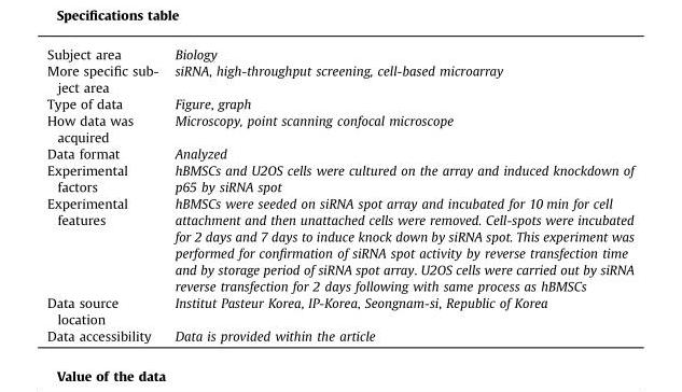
<table><tbody><tr><td>Subject area</td><td>Biology</td></tr><tr><td>More specific sub- ject area</td><td>siRNA, high-throughput screening, cell-based microarray</td></tr><tr><td>Type of data</td><td>Figure, graph</td></tr><tr><td>How data was acquired</td><td>Microscopy, point scanning confocal microscope</td></tr><tr><td>Data format</td><td>Analyzed</td></tr><tr><td>Experimental factors</td><td>hBMSCs and U2OS cells were cultured on the array and induced knockdown of p65 by siRNA spot</td></tr><tr><td>Experimental features</td><td>hBMSCs were seeded on siRNA spot array and incubated for 10 min for cell attachment and then unattached cells were removed. Cell-spots were incubated for 2 days and 7 days to induce knock down by siRNA spot. This experiment was performed for confirmation of siRNA spot activity by reverse transfection time and by storage period of siRNA spot array. U2OS cells were carried out by siRNA reverse transfection for 2 days following with same process as hBMSCs</td></tr><tr><td>Data source location</td><td>Institut Pasteur Korea, IP-Korea, Seongnam-si, Republic of Korea</td></tr><tr><td>Data accessibility</td><td>Data is provided within the article</td></tr></tbody></table>